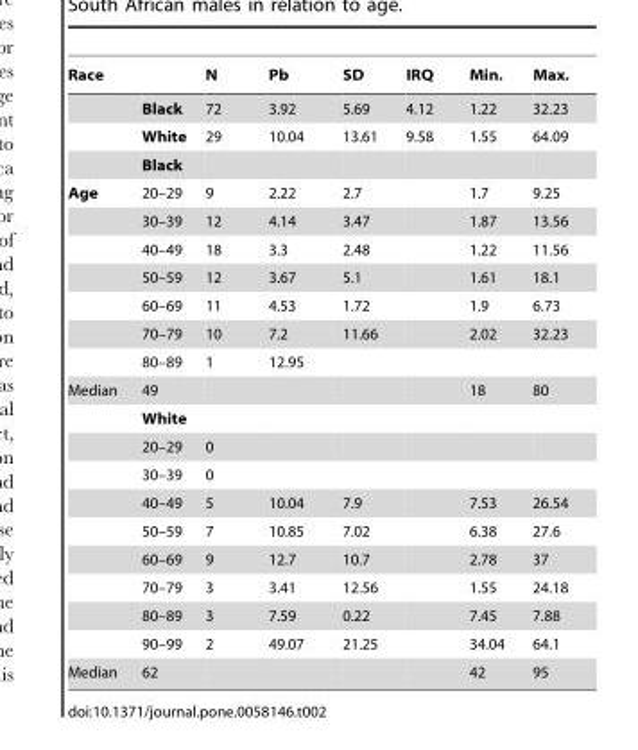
<table><thead><tr><td>Race</td><td></td><td>N</td><td>Pb</td><td>SD</td><td>IRQ</td><td>Min.</td><td>Max.</td></tr></thead><tbody><tr><td></td><td>Black</td><td>72</td><td>3.92</td><td>5.69</td><td>4.12</td><td>1.22</td><td>32.23</td></tr><tr><td></td><td>White</td><td>29</td><td>10.04</td><td>13.61</td><td>9.58</td><td>1.55</td><td>64.09</td></tr><tr><td></td><td>Black</td><td></td><td></td><td></td><td></td><td></td><td></td></tr><tr><td rowspan="7">Age</td><td>20–29</td><td>9</td><td>2.22</td><td>2.7</td><td></td><td>1.7</td><td>9.25</td></tr><tr><td>30–39</td><td>12</td><td>4.14</td><td>3.47</td><td></td><td>1.87</td><td>13.56</td></tr><tr><td>40–49</td><td>18</td><td>3.3</td><td>2.48</td><td></td><td>1.22</td><td>11.56</td></tr><tr><td>50–59</td><td>12</td><td>3.67</td><td>5.1</td><td></td><td>1.61</td><td>18.1</td></tr><tr><td>60–69</td><td>11</td><td>4.53</td><td>1.72</td><td></td><td>1.9</td><td>6.73</td></tr><tr><td>70–79</td><td>10</td><td>7.2</td><td>11.66</td><td></td><td>2.02</td><td>32.23</td></tr><tr><td>80–89</td><td>1</td><td>12.95</td><td></td><td></td><td></td><td></td></tr><tr><td rowspan="10">Median</td><td>49</td><td></td><td></td><td></td><td></td><td>18</td><td>80</td></tr><tr><td>White</td><td></td><td></td><td></td><td></td><td></td><td></td></tr><tr><td>20–29</td><td>0</td><td></td><td></td><td></td><td></td><td></td></tr><tr><td>30–39</td><td>0</td><td></td><td></td><td></td><td></td><td></td></tr><tr><td>40–49</td><td>5</td><td>10.04</td><td>7.9</td><td></td><td>7.53</td><td>26.54</td></tr><tr><td>50–59</td><td>7</td><td>10.85</td><td>7.02</td><td></td><td>6.38</td><td>27.6</td></tr><tr><td>60–69</td><td>9</td><td>12.7</td><td>10.7</td><td></td><td>2.78</td><td>37</td></tr><tr><td>70–79</td><td>3</td><td>3.41</td><td>12.56</td><td></td><td>1.55</td><td>24.18</td></tr><tr><td>80–89</td><td>3</td><td>7.59</td><td>0.22</td><td></td><td>7.45</td><td>7.88</td></tr><tr><td>90–99</td><td>2</td><td>49.07</td><td>21.25</td><td></td><td>34.04</td><td>64.1</td></tr><tr><td>Median</td><td>62</td><td></td><td></td><td></td><td></td><td>42</td><td>95</td></tr></tbody></table>